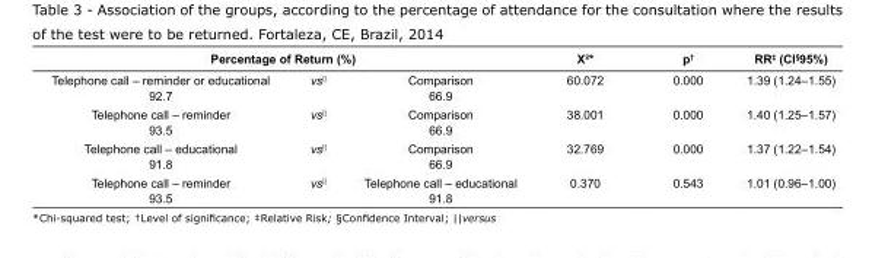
<table><tbody><tr><td colspan="3">Percentage of Return (%)</td><td>X²*</td><td>p<sup>†</sup></td><td>RR<sup>‡</sup> (CI<sup>§</sup>95%)</td></tr><tr><td>Telephone call – reminder or educational 92.7</td><td>vs<sup>||</sup></td><td>Comparison 66.9</td><td>60.072</td><td>0.000</td><td>1.39 (1.24–1.55)</td></tr><tr><td>Telephone call – reminder 93.5</td><td>vs<sup>||</sup></td><td>Comparison 66.9</td><td>38.001</td><td>0.000</td><td>1.40 (1.25–1.57)</td></tr><tr><td>Telephone call – educational 91.8</td><td>vs<sup>||</sup></td><td>Comparison 66.9</td><td>32.769</td><td>0.000</td><td>1.37 (1.22–1.54)</td></tr><tr><td>Telephone call – reminder 93.5</td><td>vs<sup>||</sup></td><td>Telephone call – educational 91.8</td><td>0.370</td><td>0.543</td><td>1.01 (0.96–1.00)</td></tr></tbody></table>